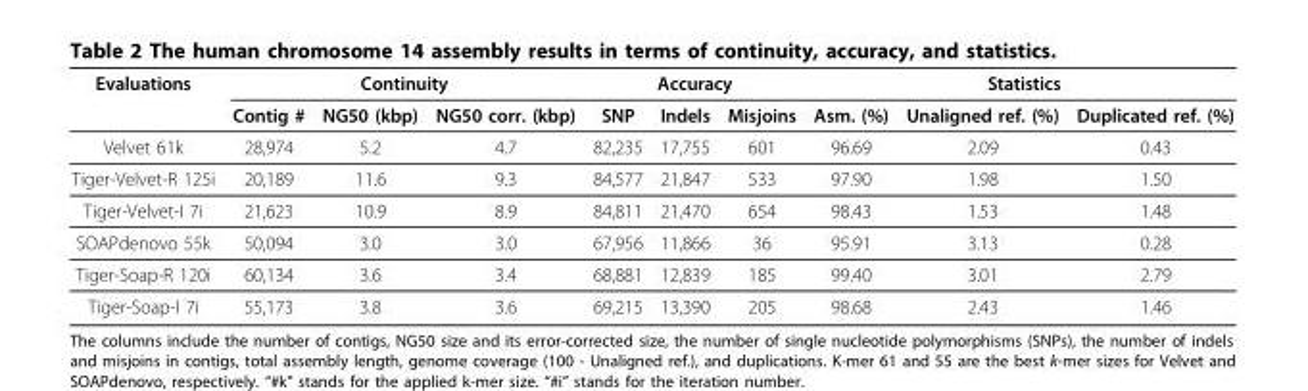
<table><thead><tr><td rowspan="2">Evaluations</td><td colspan="3">Continuity</td><td colspan="3">Accuracy</td><td colspan="3">Statistics</td></tr><tr><td>Contig #</td><td>NG50 (kbp)</td><td>NG50 corr. (kbp)</td><td>SNP</td><td>Indels</td><td>Misjoins</td><td>Asm. (%)</td><td>Unaligned ref. (%)</td><td>Duplicated ref. (%)</td></tr></thead><tbody><tr><td>Velvet 61k</td><td>28,974</td><td>5.2</td><td>4.7</td><td>82,235</td><td>17,755</td><td>601</td><td>96.69</td><td>2.09</td><td>0.43</td></tr><tr><td>Tiger-Velvet-R 125i</td><td>20,189</td><td>11.6</td><td>9.3</td><td>84,577</td><td>21,847</td><td>533</td><td>97.90</td><td>1.98</td><td>1.50</td></tr><tr><td>Tiger-Velvet-I 7i</td><td>21,623</td><td>10.9</td><td>8.9</td><td>84,811</td><td>21,470</td><td>654</td><td>98.43</td><td>1.53</td><td>1.48</td></tr><tr><td>SOAPdenovo 55k</td><td>50,094</td><td>3.0</td><td>3.0</td><td>67,956</td><td>11,866</td><td>36</td><td>95.91</td><td>3.13</td><td>0.28</td></tr><tr><td>Tiger-Soap-R 120i</td><td>60,134</td><td>3.6</td><td>3.4</td><td>68,881</td><td>12,839</td><td>185</td><td>99.40</td><td>3.01</td><td>2.79</td></tr><tr><td>Tiger-Soap-I 7i</td><td>55,173</td><td>3.8</td><td>3.6</td><td>69,215</td><td>13,390</td><td>205</td><td>98.68</td><td>2.43</td><td>1.46</td></tr></tbody></table>